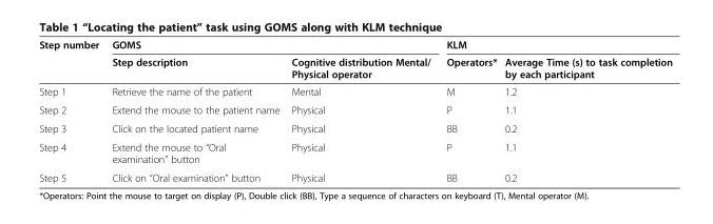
<table><thead><tr><td rowspan="2">Step number</td><td colspan="2">GOMS</td><td colspan="2">KLM</td></tr><tr><td>Step description</td><td>Cognitive distribution Mental/ Physical operator</td><td>Operators*</td><td>Average Time (s) to task completion by each participant</td></tr></thead><tbody><tr><td>Step 1</td><td>Retrieve the name of the patient</td><td>Mental</td><td>M</td><td>1.2</td></tr><tr><td>Step 2</td><td>Extend the mouse to the patient name</td><td>Physical</td><td>P</td><td>1.1</td></tr><tr><td>Step 3</td><td>Click on the located patient name</td><td>Physical</td><td>BB</td><td>0.2</td></tr><tr><td>Step 4</td><td>Extend the mouse to “Oral examination” button</td><td>Physical</td><td>P</td><td>1.1</td></tr><tr><td>Step 5</td><td>Click on “Oral examination” button</td><td>Physical</td><td>BB</td><td>0.2</td></tr></tbody></table>